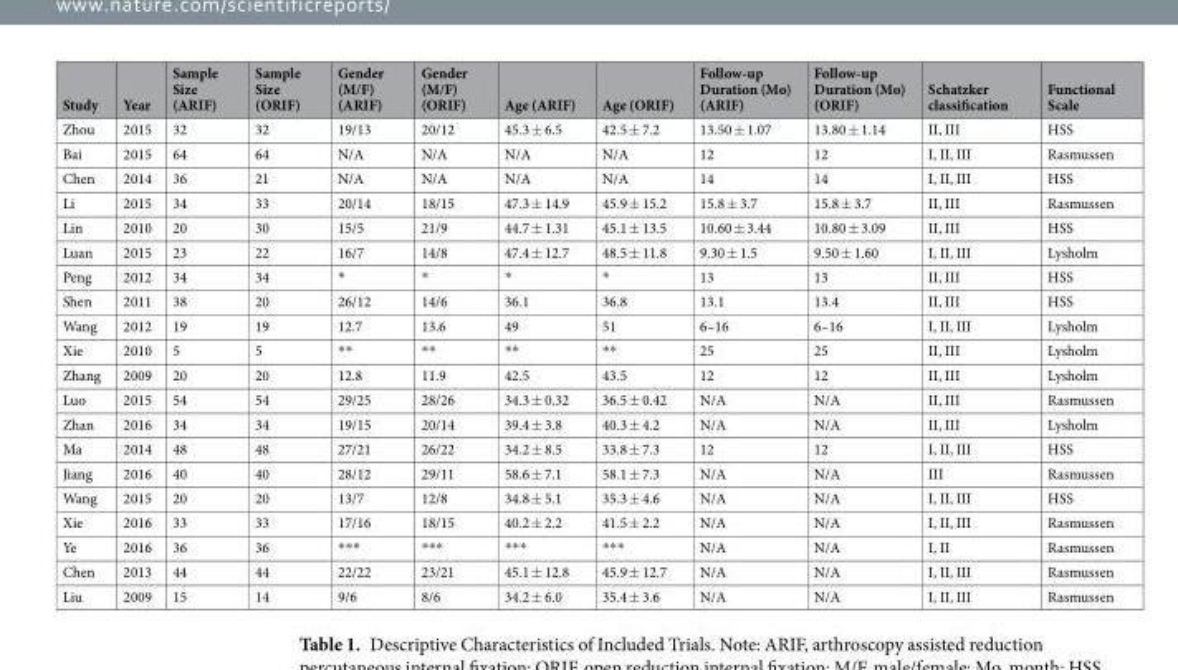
<table><thead><tr><td>Study</td><td>Year</td><td>Sample Size (ARIF)</td><td>Sample Size (ORIF)</td><td>Gender (M/F) (ARIF)</td><td>Gender (M/F) (ORIF)</td><td>Age (ARIF)</td><td>Age (ORIF)</td><td>Follow-up Duration (Mo) (ARIF)</td><td>Follow-up Duration (Mo) (ORIF)</td><td>Schatzker classification</td><td>Functional Scale</td></tr></thead><tbody><tr><td>Zhou</td><td>2015</td><td>32</td><td>32</td><td>19/13</td><td>20/12</td><td>45.3 ± 6.5</td><td>42.5 ± 7.2</td><td>13.50 ± 1.07</td><td>13.80 ± 1.14</td><td>II, III</td><td>HSS</td></tr><tr><td>Bai</td><td>2015</td><td>64</td><td>64</td><td>N/A</td><td>N/A</td><td>N/A</td><td>N/A</td><td>12</td><td>12</td><td>I, II, III</td><td>Rasmussen</td></tr><tr><td>Chen</td><td>2014</td><td>36</td><td>21</td><td>N/A</td><td>N/A</td><td>N/A</td><td>N/A</td><td>14</td><td>14</td><td>I, II, III</td><td>HSS</td></tr><tr><td>Li</td><td>2015</td><td>34</td><td>33</td><td>20/14</td><td>18/15</td><td>47.3 ± 14.9</td><td>45.9 ± 15.2</td><td>15.8 ± 3.7</td><td>15.8 ± 3.7</td><td>II, III</td><td>Rasmussen</td></tr><tr><td>Lin</td><td>2010</td><td>20</td><td>30</td><td>15/5</td><td>21/9</td><td>44.7 ± 1.31</td><td>45.1 ± 13.5</td><td>10.60 ± 3.44</td><td>10.80 ± 3.09</td><td>II, III</td><td>HSS</td></tr><tr><td>Luan</td><td>2015</td><td>23</td><td>22</td><td>16/7</td><td>14/8</td><td>47.4 ± 12.7</td><td>48.5 ± 11.8</td><td>9.30 ± 1.5</td><td>9.50 ± 1.60</td><td>I, II, III</td><td>Lysholm</td></tr><tr><td>Peng</td><td>2012</td><td>34</td><td>34</td><td>*</td><td>*</td><td>*</td><td>*</td><td>13</td><td>13</td><td>II, III</td><td>HSS</td></tr><tr><td>Shen</td><td>2011</td><td>38</td><td>20</td><td>26/12</td><td>14/6</td><td>36.1</td><td>36.8</td><td>13.1</td><td>13.4</td><td>II, III</td><td>HSS</td></tr><tr><td>Wang</td><td>2012</td><td>19</td><td>19</td><td>12.7</td><td>13.6</td><td>49</td><td>51</td><td>6–16</td><td>6–16</td><td>I, II, III</td><td>Lysholm</td></tr><tr><td>Xie</td><td>2010</td><td>5</td><td>5</td><td>**</td><td>**</td><td>**</td><td>**</td><td>25</td><td>25</td><td>II, III</td><td>Lysholm</td></tr><tr><td>Zhang</td><td>2009</td><td>20</td><td>20</td><td>12.8</td><td>11.9</td><td>42.5</td><td>43.5</td><td>12</td><td>12</td><td>II, III</td><td>Lysholm</td></tr><tr><td>Luo</td><td>2015</td><td>54</td><td>54</td><td>29/25</td><td>28/26</td><td>34.3 ± 0.32</td><td>36.5 ± 0.42</td><td>N/A</td><td>N/A</td><td>II, III</td><td>Rasmussen</td></tr><tr><td>Zhan</td><td>2016</td><td>34</td><td>34</td><td>19/15</td><td>20/14</td><td>39.4 ± 3.8</td><td>40.3 ± 4.2</td><td>N/A</td><td>N/A</td><td>II, III</td><td>Lysholm</td></tr><tr><td>Ma</td><td>2014</td><td>48</td><td>48</td><td>27/21</td><td>26/22</td><td>34.2 ± 8.5</td><td>33.8 ± 7.3</td><td>12</td><td>12</td><td>I, II, III</td><td>HSS</td></tr><tr><td>Jiang</td><td>2016</td><td>40</td><td>40</td><td>28/12</td><td>29/11</td><td>58.6 ± 7.1</td><td>58.1 ± 7.3</td><td>N/A</td><td>N/A</td><td>III</td><td>Rasmussen</td></tr><tr><td>Wang</td><td>2015</td><td>20</td><td>20</td><td>13/7</td><td>12/8</td><td>34.8 ± 5.1</td><td>35.3 ± 4.6</td><td>N/A</td><td>N/A</td><td>I, II, III</td><td>HSS</td></tr><tr><td>Xie</td><td>2016</td><td>33</td><td>33</td><td>17/16</td><td>18/15</td><td>40.2 ± 2.2</td><td>41.5 ± 2.2</td><td>N/A</td><td>N/A</td><td>I, II, III</td><td>Rasmussen</td></tr><tr><td>Ye</td><td>2016</td><td>36</td><td>36</td><td>***</td><td>***</td><td>***</td><td>***</td><td>N/A</td><td>N/A</td><td>I, II</td><td>Rasmussen</td></tr><tr><td>Chen</td><td>2013</td><td>44</td><td>44</td><td>22/22</td><td>23/21</td><td>45.1 ± 12.8</td><td>45.9 ± 12.7</td><td>N/A</td><td>N/A</td><td>I, II, III</td><td>Rasmussen</td></tr><tr><td>Liu</td><td>2009</td><td>15</td><td>14</td><td>9/6</td><td>8/6</td><td>34.2 ± 6.0</td><td>35.4 ± 3.6</td><td>N/A</td><td>N/A</td><td>I, II, III</td><td>Rasmussen</td></tr></tbody></table>